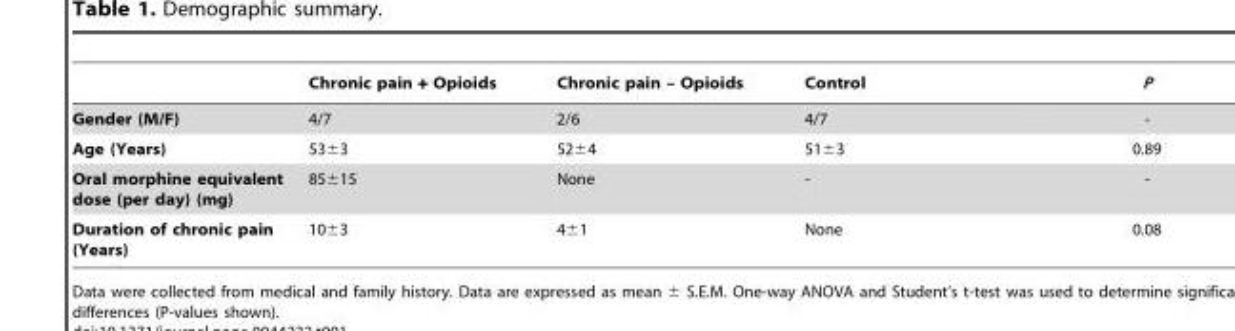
<table><thead><tr><td></td><td>Chronic pain + Opioids</td><td>Chronic pain – Opioids</td><td>Control</td><td>P</td></tr></thead><tbody><tr><td>Gender (M/F)</td><td>4/7</td><td>2/6</td><td>4/7</td><td>-</td></tr><tr><td>Age (Years)</td><td>53±3</td><td>52±4</td><td>51±3</td><td>0.89</td></tr><tr><td>Oral morphine equivalent dose (per day) (mg)</td><td>85±15</td><td>None</td><td>-</td><td>-</td></tr><tr><td>Duration of chronic pain (Years)</td><td>10±3</td><td>4±1</td><td>None</td><td>0.08</td></tr></tbody></table>